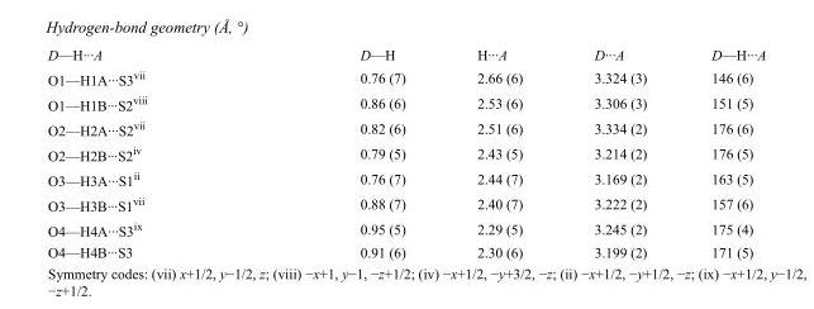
<table><tbody><tr><td>D—H···A</td><td>D—H</td><td>H···A</td><td>D···A</td><td>D—H···A</td></tr><tr><td>O1—H1A···S3<sup>vii</sup></td><td>0.76 (7)</td><td>2.66 (6)</td><td>3.324 (3)</td><td>146 (6)</td></tr><tr><td>O1—H1B···S2<sup>viii</sup></td><td>0.86 (6)</td><td>2.53 (6)</td><td>3.306 (3)</td><td>151 (5)</td></tr><tr><td>O2—H2A···S2<sup>vii</sup></td><td>0.82 (6)</td><td>2.51 (6)</td><td>3.334 (2)</td><td>176 (6)</td></tr><tr><td>O2—H2B···S2<sup>iv</sup></td><td>0.79 (5)</td><td>2.43 (5)</td><td>3.214 (2)</td><td>176 (5)</td></tr><tr><td>O3—H3A···S1<sup>ii</sup></td><td>0.76 (7)</td><td>2.44 (7)</td><td>3.169 (2)</td><td>163 (5)</td></tr><tr><td>O3—H3B···S1<sup>vii</sup></td><td>0.88 (7)</td><td>2.40 (7)</td><td>3.222 (2)</td><td>157 (6)</td></tr><tr><td>O4—H4A···S3<sup>ix</sup></td><td>0.95 (5)</td><td>2.29 (5)</td><td>3.245 (2)</td><td>175 (4)</td></tr><tr><td>O4—H4B···S3</td><td>0.91 (6)</td><td>2.30 (6)</td><td>3.199 (2)</td><td>171 (5)</td></tr></tbody></table>